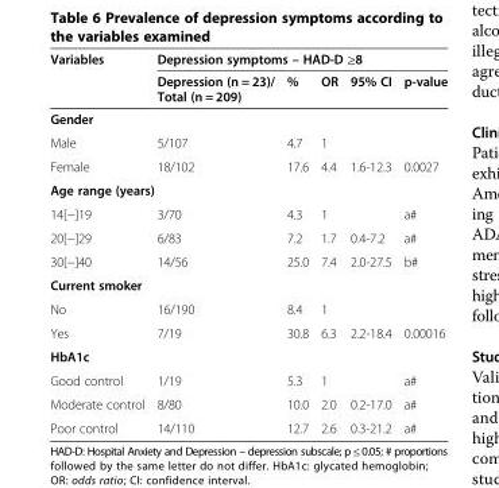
<table><thead><tr><td rowspan="2">Variables</td><td colspan="5">Depression symptoms – HAD-D ≥8</td></tr><tr><td>Depression (n = 23)/ Total (n = 209)</td><td>%</td><td>OR</td><td>95% CI</td><td>p-value</td></tr></thead><tbody><tr><td colspan="6">Gender</td></tr><tr><td>Male</td><td>5/107</td><td>4.7</td><td>1</td><td></td><td></td></tr><tr><td>Female</td><td>18/102</td><td>17.6</td><td>4.4</td><td>1.6-12.3</td><td>0.0027</td></tr><tr><td colspan="6">Age range (years)</td></tr><tr><td>14[−]19</td><td>3/70</td><td>4.3</td><td>1</td><td></td><td>a#</td></tr><tr><td>20[−]29</td><td>6/83</td><td>7.2</td><td>1.7</td><td>0.4-7.2</td><td>a#</td></tr><tr><td>30[−]40</td><td>14/56</td><td>25.0</td><td>7.4</td><td>2.0-27.5</td><td>b#</td></tr><tr><td colspan="6">Current smoker</td></tr><tr><td>No</td><td>16/190</td><td>8.4</td><td>1</td><td></td><td></td></tr><tr><td>Yes</td><td>7/19</td><td>30.8</td><td>6.3</td><td>2.2-18.4</td><td>0.00016</td></tr><tr><td colspan="6">HbA1c</td></tr><tr><td>Good control</td><td>1/19</td><td>5.3</td><td>1</td><td></td><td>a#</td></tr><tr><td>Moderate control</td><td>8/80</td><td>10.0</td><td>2.0</td><td>0.2-17.0</td><td>a#</td></tr><tr><td>Poor control</td><td>14/110</td><td>12.7</td><td>2.6</td><td>0.3-21.2</td><td>a#</td></tr></tbody></table>